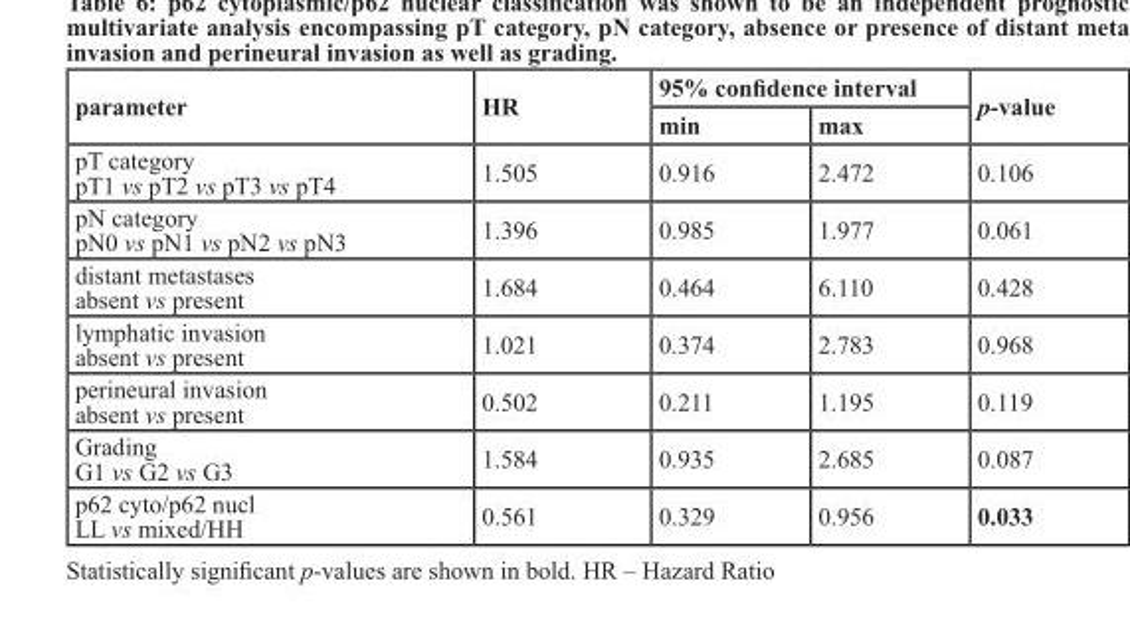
<table><thead><tr><td rowspan="2">parameter</td><td rowspan="2">Hr</td><td colspan="2">95% confidence interval</td><td rowspan="2">p-value</td></tr><tr><td>min</td><td>max</td></tr></thead><tbody><tr><td>pT category pT1 vs pT2 vs pT3 vs pT4</td><td>1.505</td><td>0.916</td><td>2.472</td><td>0.106</td></tr><tr><td>pN category pN0 vs pN1 vs pN2 vs pN3</td><td>1.396</td><td>0.985</td><td>1.977</td><td>0.061</td></tr><tr><td>distant metastases absent vs present</td><td>1.684</td><td>0.464</td><td>6.110</td><td>0.428</td></tr><tr><td>lymphatic invasion absent vs present</td><td>1.021</td><td>0.374</td><td>2.783</td><td>0.968</td></tr><tr><td>perineural invasion absent vs present</td><td>0.502</td><td>0.211</td><td>1.195</td><td>0.119</td></tr><tr><td>Grading G1 vs G2 vs G3</td><td>1.584</td><td>0.935</td><td>2.685</td><td>0.087</td></tr><tr><td>p62 cyto/p62 nucl LL vs mixed/HH</td><td>0.561</td><td>0.329</td><td>0.956</td><td>0.033</td></tr></tbody></table>